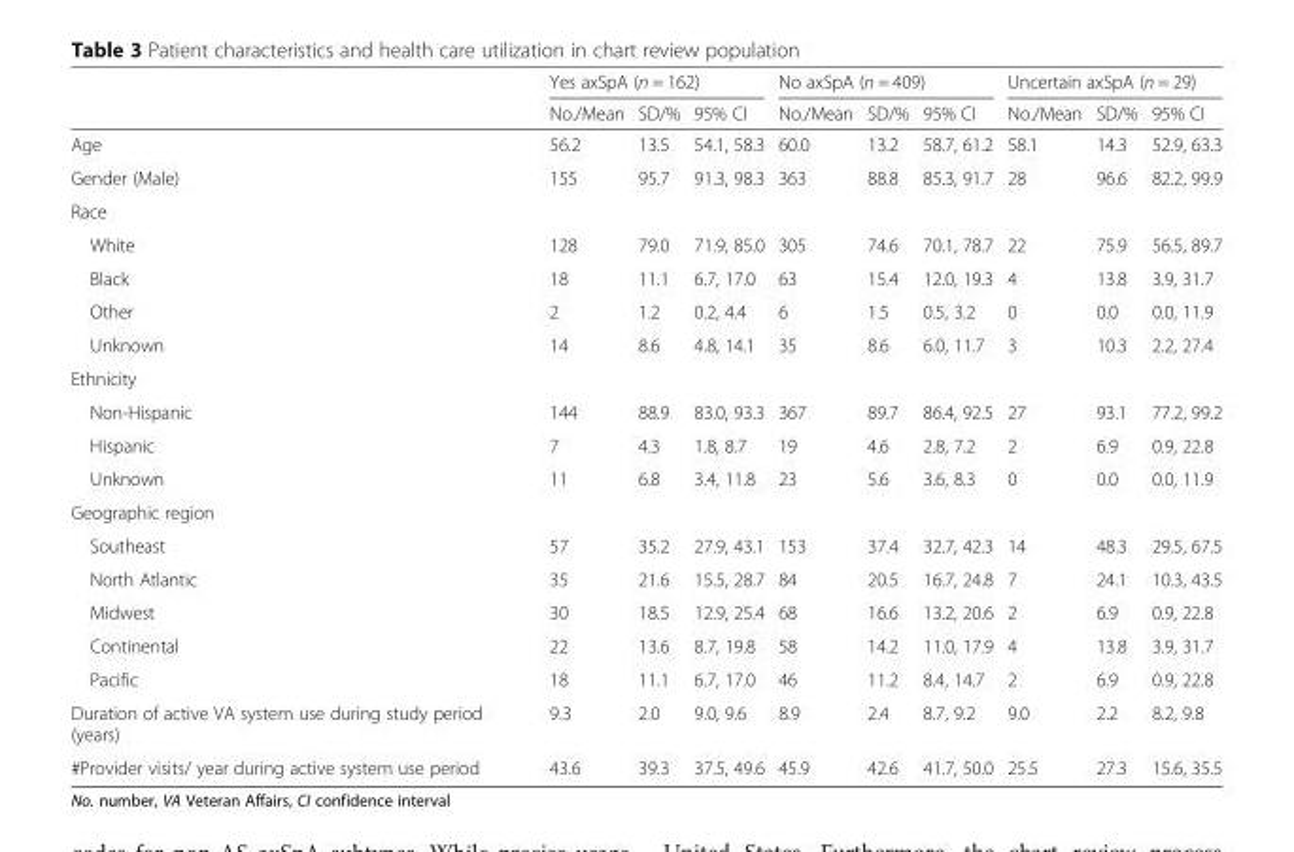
<table><thead><tr><td rowspan="2"></td><td colspan="3">Yes axSpA (n = 162)</td><td colspan="3">No axSpA (n = 409)</td><td colspan="3">Uncertain axSpA (n = 29)</td></tr><tr><td>No./Mean</td><td>SD/%</td><td>95% CI</td><td>No./Mean</td><td>SD/%</td><td>95% CI</td><td>No./Mean</td><td>SD/%</td><td>95% CI</td></tr></thead><tbody><tr><td>Age</td><td>56.2</td><td>13.5</td><td>54.1, 58.3</td><td>60.0</td><td>13.2</td><td>58.7, 61.2</td><td>58.1</td><td>14.3</td><td>52.9, 63.3</td></tr><tr><td>Gender (Male)</td><td>155</td><td>95.7</td><td>91.3, 98.3</td><td>363</td><td>88.8</td><td>85.3, 91.7</td><td>28</td><td>96.6</td><td>82.2, 99.9</td></tr><tr><td colspan="10">Race</td></tr><tr><td>White</td><td>128</td><td>79.0</td><td>71.9, 85.0</td><td>305</td><td>74.6</td><td>70.1, 78.7</td><td>22</td><td>75.9</td><td>56.5, 89.7</td></tr><tr><td>Black</td><td>18</td><td>11.1</td><td>6.7, 17.0</td><td>63</td><td>15.4</td><td>12.0, 19.3</td><td>4</td><td>13.8</td><td>3.9, 31.7</td></tr><tr><td>Other</td><td>2</td><td>1.2</td><td>0.2, 4.4</td><td>6</td><td>1.5</td><td>0.5, 3.2</td><td>0</td><td>0.0</td><td>0.0, 11.9</td></tr><tr><td>Unknown</td><td>14</td><td>8.6</td><td>4.8, 14.1</td><td>35</td><td>8.6</td><td>6.0, 11.7</td><td>3</td><td>10.3</td><td>2.2, 27.4</td></tr><tr><td colspan="10">Ethnicity</td></tr><tr><td>Non-Hispanic</td><td>144</td><td>88.9</td><td>83.0, 93.3</td><td>367</td><td>89.7</td><td>86.4, 92.5</td><td>27</td><td>93.1</td><td>77.2, 99.2</td></tr><tr><td>Hispanic</td><td>7</td><td>4.3</td><td>1.8, 8.7</td><td>19</td><td>4.6</td><td>2.8, 7.2</td><td>2</td><td>6.9</td><td>0.9, 22.8</td></tr><tr><td>Unknown</td><td>11</td><td>6.8</td><td>3.4, 11.8</td><td>23</td><td>5.6</td><td>3.6, 8.3</td><td>0</td><td>0.0</td><td>0.0, 11.9</td></tr><tr><td colspan="10">Geographic region</td></tr><tr><td>Southeast</td><td>57</td><td>35.2</td><td>27.9, 43.1</td><td>153</td><td>37.4</td><td>32.7, 42.3</td><td>14</td><td>48.3</td><td>29.5, 67.5</td></tr><tr><td>North Atlantic</td><td>35</td><td>21.6</td><td>15.5, 28.7</td><td>84</td><td>20.5</td><td>16.7, 24.8</td><td>7</td><td>24.1</td><td>10.3, 43.5</td></tr><tr><td>Midwest</td><td>30</td><td>18.5</td><td>12.9, 25.4</td><td>68</td><td>16.6</td><td>13.2, 20.6</td><td>2</td><td>6.9</td><td>0.9, 22.8</td></tr><tr><td>Continental</td><td>22</td><td>13.6</td><td>8.7, 19.8</td><td>58</td><td>14.2</td><td>11.0, 17.9</td><td>4</td><td>13.8</td><td>3.9, 31.7</td></tr><tr><td>Pacific</td><td>18</td><td>11.1</td><td>6.7, 17.0</td><td>46</td><td>11.2</td><td>8.4, 14.7</td><td>2</td><td>6.9</td><td>0.9, 22.8</td></tr><tr><td>Duration of active VA system use during study period (years)</td><td>9.3</td><td>2.0</td><td>9.0, 9.6</td><td>8.9</td><td>2.4</td><td>8.7, 9.2</td><td>9.0</td><td>2.2</td><td>8.2, 9.8</td></tr><tr><td>#Provider visits/ year during active system use period</td><td>43.6</td><td>39.3</td><td>37.5, 49.6</td><td>45.9</td><td>42.6</td><td>41.7, 50.0</td><td>25.5</td><td>27.3</td><td>15.6, 35.5</td></tr></tbody></table>